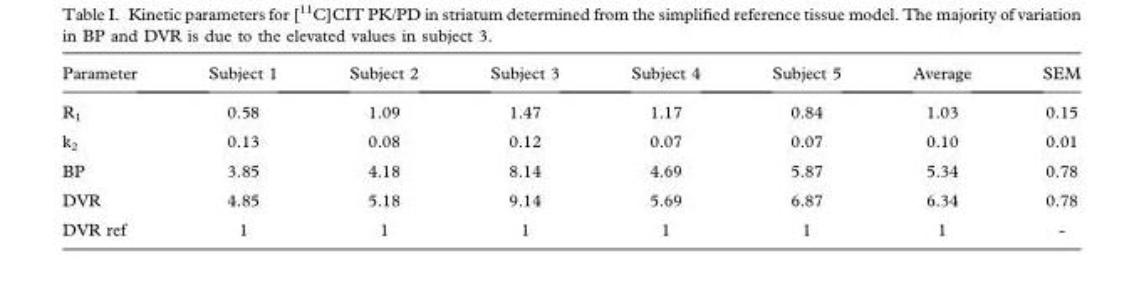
<table><thead><tr><td>Parameter</td><td>Subject 1</td><td>Subject 2</td><td>Subject 3</td><td>Subject 4</td><td>Subject 5</td><td>Average</td><td>SEM</td></tr></thead><tbody><tr><td>R<sub>1</sub></td><td>0.58</td><td>1.09</td><td>1.47</td><td>1.17</td><td>0.84</td><td>1.03</td><td>0.15</td></tr><tr><td>k<sub>2</sub></td><td>0.13</td><td>0.08</td><td>0.12</td><td>0.07</td><td>0.07</td><td>0.10</td><td>0.01</td></tr><tr><td>BP</td><td>3.85</td><td>4.18</td><td>8.14</td><td>4.69</td><td>5.87</td><td>5.34</td><td>0.78</td></tr><tr><td>DVR</td><td>4.85</td><td>5.18</td><td>9.14</td><td>5.69</td><td>6.87</td><td>6.34</td><td>0.78</td></tr><tr><td>DVR ref</td><td>1</td><td>1</td><td>1</td><td>1</td><td>1</td><td>1</td><td>-</td></tr></tbody></table>